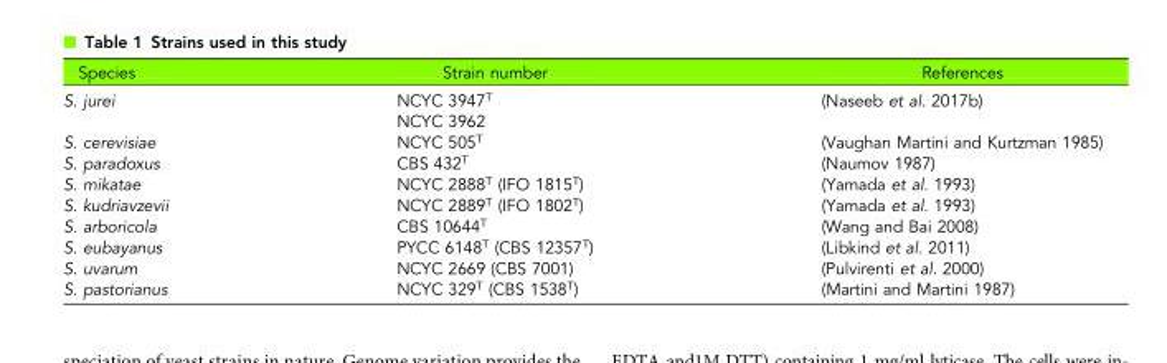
<table><thead><tr><td>Species</td><td>Strain number</td><td>References</td></tr></thead><tbody><tr><td rowspan="2">S. jurei</td><td>NCYC 3947<sup>T</sup></td><td rowspan="2">(Naseeb et al. 2017b)</td></tr><tr><td>NCYC 3962</td></tr><tr><td>S. cerevisiae</td><td>NCYC 505<sup>T</sup></td><td>(Vaughan Martini and Kurtzman 1985)</td></tr><tr><td>S. paradoxus</td><td>CBS 432<sup>T</sup></td><td>(Naumov 1987)</td></tr><tr><td>S. mikatae</td><td>NCYC 2888<sup>T</sup> (IFO 1815<sup>T</sup>)</td><td>(Yamada et al. 1993)</td></tr><tr><td>S. kudriavzevii</td><td>NCYC 2889<sup>T</sup> (IFO 1802<sup>T</sup>)</td><td>(Yamada et al. 1993)</td></tr><tr><td>S. arboricola</td><td>CBS 10644<sup>T</sup></td><td>(Wang and Bai 2008)</td></tr><tr><td>S. eubayanus</td><td>PYCC 6148<sup>T</sup> (CBS 12357<sup>T</sup>)</td><td>(Libkind et al. 2011)</td></tr><tr><td>S. uvarum</td><td>NCYC 2669 (CBS 7001)</td><td>(Pulvirenti et al. 2000)</td></tr><tr><td>S. pastorianus</td><td>NCYC 329<sup>T</sup> (CBS 1538<sup>T</sup>)</td><td>(Martini and Martini 1987)</td></tr></tbody></table>